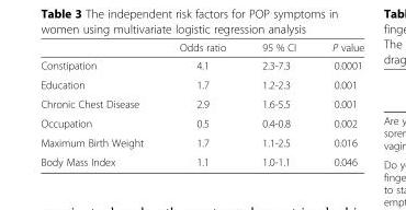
<table><thead><tr><td></td><td>Odds ratio</td><td>95 % CI</td><td>P value</td></tr></thead><tbody><tr><td>Constipation</td><td>4.1</td><td>2.3-7.3</td><td>0.0001</td></tr><tr><td>Education</td><td>1.7</td><td>1.2-2.3</td><td>0.001</td></tr><tr><td>Chronic Chest Disease</td><td>2.9</td><td>1.6-5.5</td><td>0.001</td></tr><tr><td>Occupation</td><td>0.5</td><td>0.4-0.8</td><td>0.002</td></tr><tr><td>Maximum Birth Weight</td><td>1.7</td><td>1.1-2.5</td><td>0.016</td></tr><tr><td>Body Mass Index</td><td>1.1</td><td>1.0-1.1</td><td>0.046</td></tr></tbody></table>